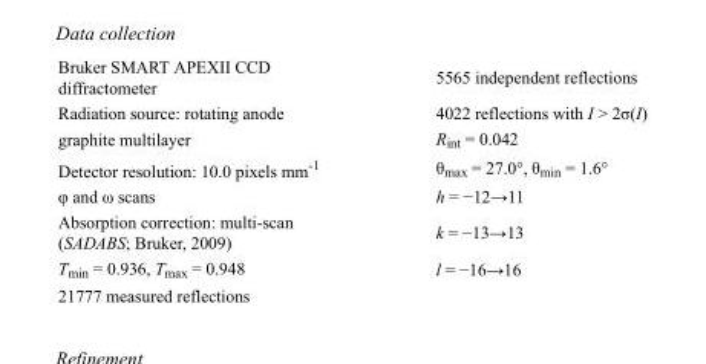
<table><tbody><tr><td>Bruker SMART APEXII CCD diffractometer</td><td>5565 independent reflections</td></tr><tr><td>Radiation source: rotating anode</td><td>4022 reflections with I &gt; 2σ(I)</td></tr><tr><td>graphite multilayer</td><td>R<sub>int</sub> = 0.042</td></tr><tr><td>Detector resolution: 10.0 pixels mm<sup>-1</sup></td><td>θ<sub>max</sub> = 27.0°, θ<sub>min</sub> = 1.6°</td></tr><tr><td>φ and ω scans</td><td>h = −12→11</td></tr><tr><td>Absorption correction: multi-scan (SADABS; Bruker, 2009)</td><td>k = −13→13</td></tr><tr><td>T<sub>min</sub> = 0.936, T<sub>max</sub> = 0.948</td><td>l = −16→16</td></tr><tr><td>21777 measured reflections</td><td></td></tr></tbody></table>